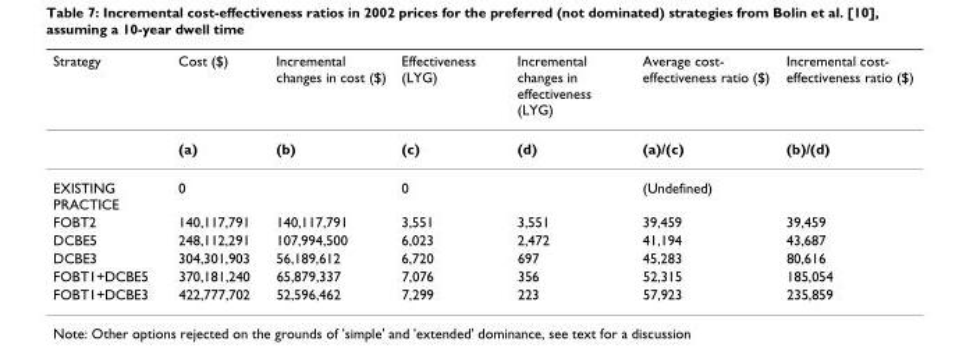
<table><thead><tr><td>Strategy</td><td>Cost ($)</td><td>Incremental changes in cost ($)</td><td>Effectiveness (LYG)</td><td>Incremental changes in effectiveness (LYG)</td><td>Average cost- effectiveness ratio ($)</td><td>Incremental cost- effectiveness ratio ($)</td></tr></thead><tbody><tr><td></td><td>(a)</td><td>(b)</td><td>(c)</td><td>(d)</td><td>(a)/(c)</td><td>(b)/(d)</td></tr><tr><td>EXISTING PRACTICE</td><td>0</td><td></td><td>0</td><td></td><td>(Undefined)</td><td></td></tr><tr><td>FOBT2</td><td>140,117,791</td><td>140,117,791</td><td>3,551</td><td>3,551</td><td>39,459</td><td>39,459</td></tr><tr><td>DCBE5</td><td>248,112,291</td><td>107,994,500</td><td>6,023</td><td>2,472</td><td>41,194</td><td>43,687</td></tr><tr><td>DCBE3</td><td>304,301,903</td><td>56,189,612</td><td>6,720</td><td>697</td><td>45,283</td><td>80,616</td></tr><tr><td>FOBT1+DCBE5</td><td>370,181,240</td><td>65,879,337</td><td>7,076</td><td>356</td><td>52,315</td><td>185,054</td></tr><tr><td>FOBT1+DCBE3</td><td>422,777,702</td><td>52,596,462</td><td>7,299</td><td>223</td><td>57,923</td><td>235,859</td></tr></tbody></table>